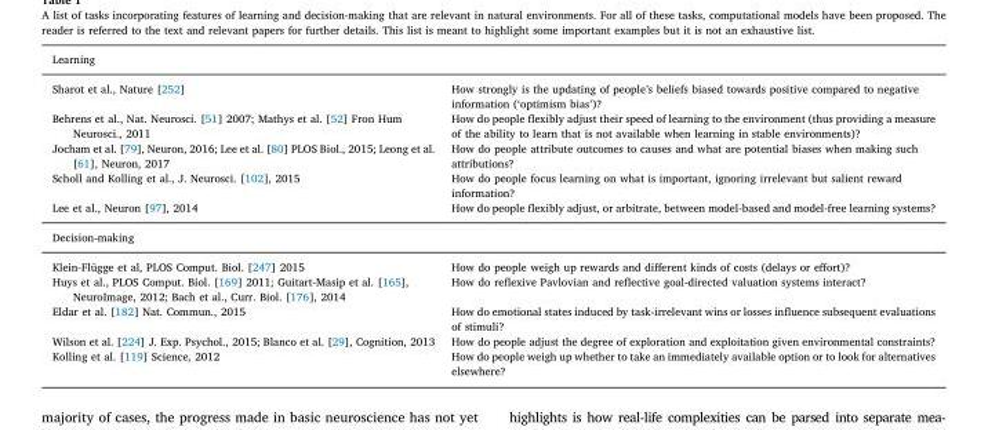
<table><tbody><tr><td colspan="2">Learning</td></tr><tr><td>Sharot et al., Nature [252]</td><td>How strongly is the updating of people’s beliefs biased towards positive compared to negative information (‘optimism bias’)?</td></tr><tr><td>Behrens et al., Nat. Neurosci. [51] 2007; Mathys et al. [52] Fron Hum Neurosci., 2011</td><td>How do people flexibly adjust their speed of learning to the environment (thus providing a measure of the ability to learn that is not available when learning in stable environments)?</td></tr><tr><td>Jocham et al. [79], Neuron, 2016; Lee et al. [80] PLOS Biol., 2015; Leong et al. [61], Neuron, 2017</td><td>How do people attribute outcomes to causes and what are potential biases when making such attributions?</td></tr><tr><td>Scholl and Kolling et al., J. Neurosci. [102], 2015</td><td>How do people focus learning on what is important, ignoring irrelevant but salient reward information?</td></tr><tr><td>Lee et al., Neuron [97], 2014</td><td>How do people flexibly adjust, or arbitrate, between model-based and model-free learning systems?</td></tr><tr><td colspan="2">Decision-making</td></tr><tr><td>Klein-Flügge et al, PLOS Comput. Biol. [247] 2015</td><td>How do people weigh up rewards and different kinds of costs (delays or effort)?</td></tr><tr><td>Huys et al., PLOS Comput. Biol. [169] 2011; Guitart-Masip et al. [165], NeuroImage, 2012; Bach et al., Curr. Biol. [176], 2014</td><td>How do reflexive Pavlovian and reflective goal-directed valuation systems interact?</td></tr><tr><td>Eldar et al. [182] Nat. Commun., 2015</td><td>How do emotional states induced by task-irrelevant wins or losses influence subsequent evaluations of stimuli?</td></tr><tr><td>Wilson et al. [224] J. Exp. Psychol., 2015; Blanco et al. [29], Cognition, 2013</td><td>How do people adjust the degree of exploration and exploitation given environmental constraints?</td></tr><tr><td>Kolling et al. [119] Science, 2012</td><td>How do people weigh up whether to take an immediately available option or to look for alternatives elsewhere?</td></tr></tbody></table>